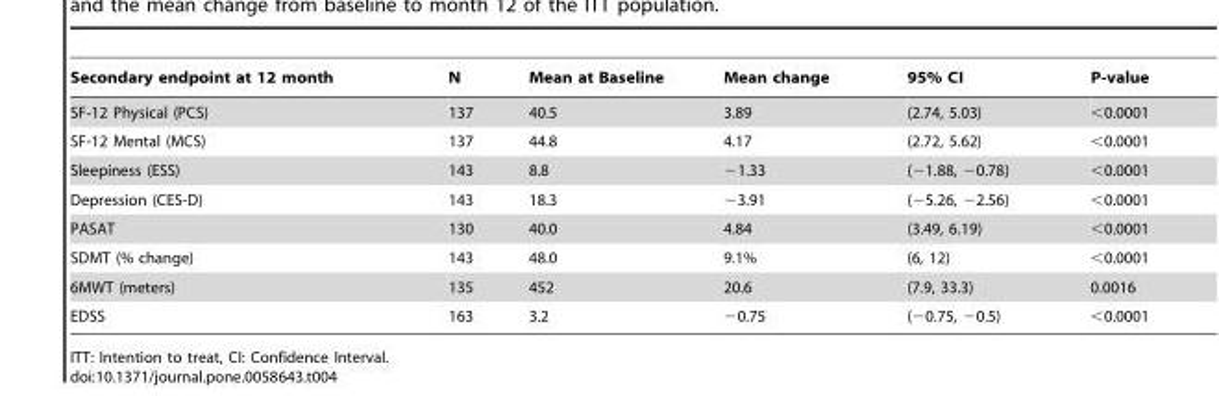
<table><thead><tr><td>Secondary endpoint at 12 month</td><td>N</td><td>Mean at Baseline</td><td>Mean change</td><td>95% CI</td><td>P-value</td></tr></thead><tbody><tr><td>SF-12 Physical (PCS)</td><td>137</td><td>40.5</td><td>3.89</td><td>(2.74, 5.03)</td><td>&lt;0.0001</td></tr><tr><td>SF-12 Mental (MCS)</td><td>137</td><td>44.8</td><td>4.17</td><td>(2.72, 5.62)</td><td>&lt;0.0001</td></tr><tr><td>Sleepiness (ESS)</td><td>143</td><td>8.8</td><td>−1.33</td><td>(−1.88, −0.78)</td><td>&lt;0.0001</td></tr><tr><td>Depression (CES-D)</td><td>143</td><td>18.3</td><td>−3.91</td><td>(−5.26, −2.56)</td><td>&lt;0.0001</td></tr><tr><td>PASAT</td><td>130</td><td>40.0</td><td>4.84</td><td>(3.49, 6.19)</td><td>&lt;0.0001</td></tr><tr><td>SDMT (% change)</td><td>143</td><td>48.0</td><td>9.1%</td><td>(6, 12)</td><td>&lt;0.0001</td></tr><tr><td>6MWT (meters)</td><td>135</td><td>452</td><td>20.6</td><td>(7.9, 33.3)</td><td>0.0016</td></tr><tr><td>EDSS</td><td>163</td><td>3.2</td><td>−0.75</td><td>(−0.75, −0.5)</td><td>&lt;0.0001</td></tr></tbody></table>